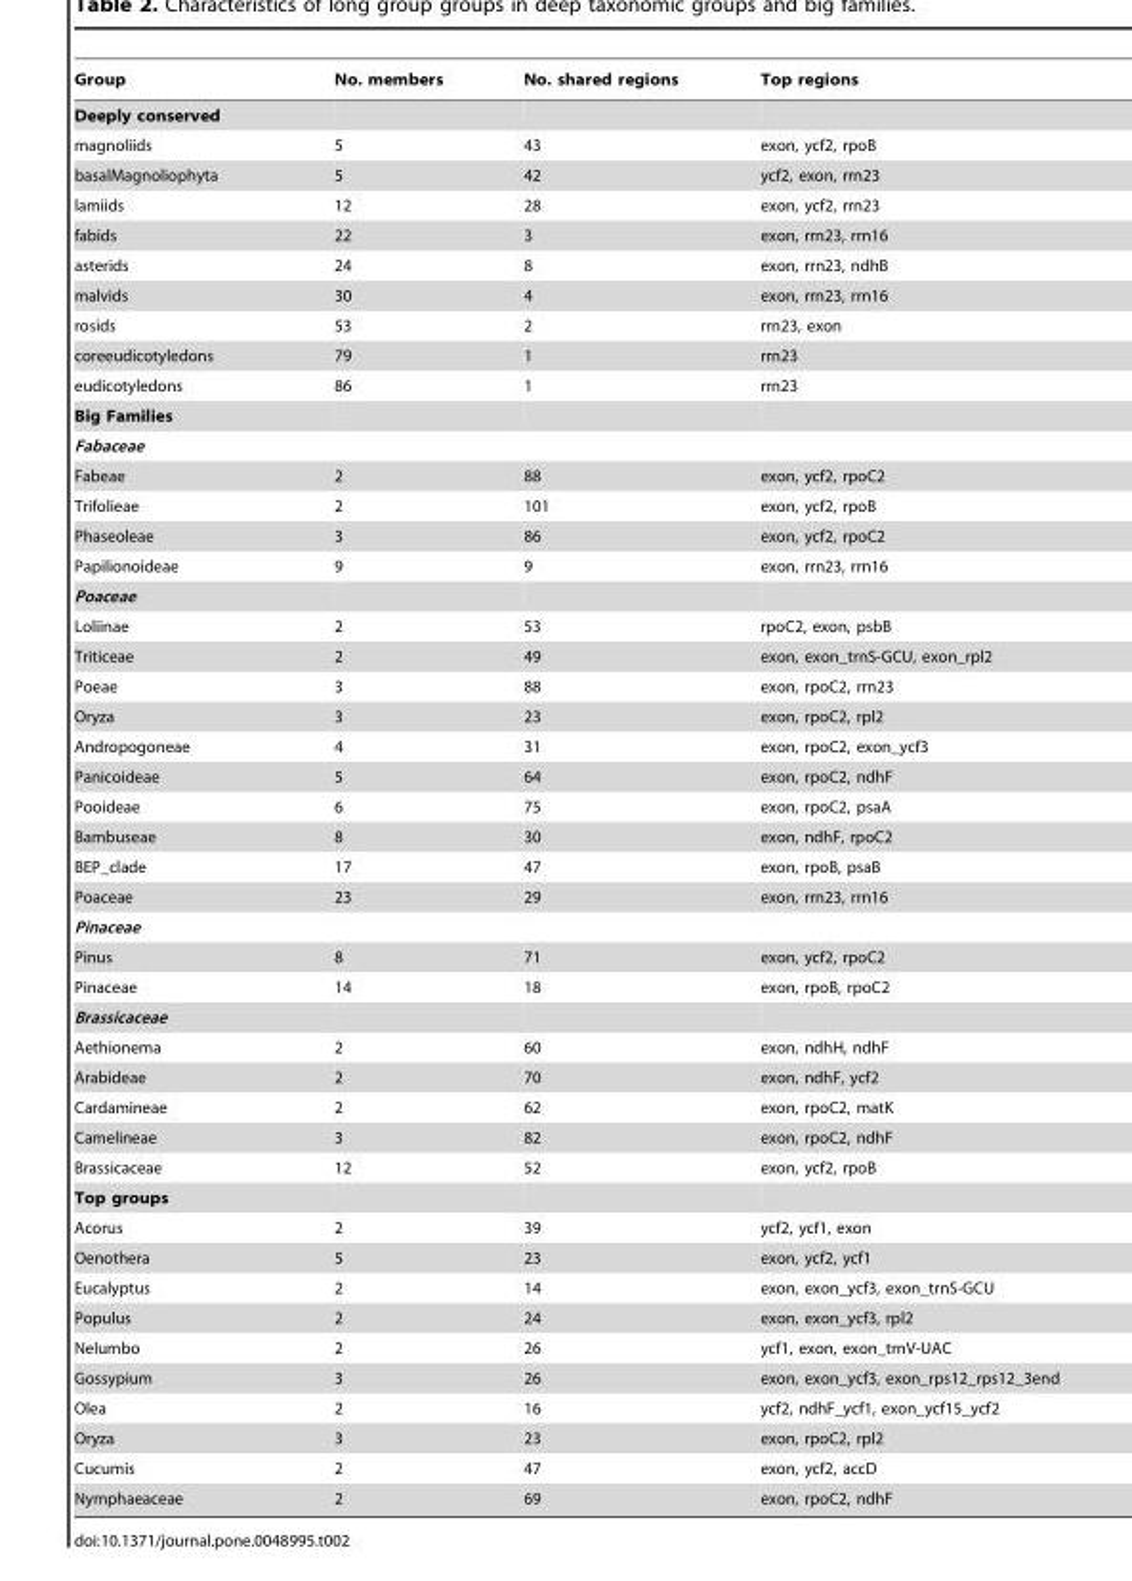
<table><thead><tr><td>Group</td><td>No. members</td><td>No. shared regions</td><td>Top regions</td></tr></thead><tbody><tr><td colspan="4">Deeply conserved</td></tr><tr><td>magnoliids</td><td>5</td><td>43</td><td>exon, ycf2, rpoB</td></tr><tr><td>basalMagnoliophyta</td><td>5</td><td>42</td><td>ycf2, exon, rrn23</td></tr><tr><td>lamiids</td><td>12</td><td>28</td><td>exon, ycf2, rrn23</td></tr><tr><td>fabids</td><td>22</td><td>3</td><td>exon, rrn23, rrn16</td></tr><tr><td>asterids</td><td>24</td><td>8</td><td>exon, rrn23, ndhB</td></tr><tr><td>malvids</td><td>30</td><td>4</td><td>exon, rrn23, rrn16</td></tr><tr><td>rosids</td><td>53</td><td>2</td><td>rrn23, exon</td></tr><tr><td>coreeudicotyledons</td><td>79</td><td>1</td><td>rrn23</td></tr><tr><td>eudicotyledons</td><td>86</td><td>1</td><td>rrn23</td></tr><tr><td colspan="4">Big Families</td></tr><tr><td colspan="4">Fabaceae</td></tr><tr><td>Fabeae</td><td>2</td><td>88</td><td>exon, ycf2, rpoC2</td></tr><tr><td>Trifolieae</td><td>2</td><td>101</td><td>exon, ycf2, rpoB</td></tr><tr><td>Phaseoleae</td><td>3</td><td>86</td><td>exon, ycf2, rpoC2</td></tr><tr><td>Papilionoideae</td><td>9</td><td>9</td><td>exon, rrn23, rrn16</td></tr><tr><td colspan="4">Poaceae</td></tr><tr><td>Loliinae</td><td>2</td><td>53</td><td>rpoC2, exon, psbB</td></tr><tr><td>Triticeae</td><td>2</td><td>49</td><td>exon, exon_trnS-GCU, exon_rpl2</td></tr><tr><td>Poeae</td><td>3</td><td>88</td><td>exon, rpoC2, rrn23</td></tr><tr><td>Oryza</td><td>3</td><td>23</td><td>exon, rpoC2, rpl2</td></tr><tr><td>Andropogoneae</td><td>4</td><td>31</td><td>exon, rpoC2, exon_ycf3</td></tr><tr><td>Panicoideae</td><td>5</td><td>64</td><td>exon, rpoC2, ndhF</td></tr><tr><td>Pooideae</td><td>6</td><td>75</td><td>exon, rpoC2, psaA</td></tr><tr><td>Bambuseae</td><td>8</td><td>30</td><td>exon, ndhF, rpoC2</td></tr><tr><td>BEP_clade</td><td>17</td><td>47</td><td>exon, rpoB, psaB</td></tr><tr><td>Poaceae</td><td>23</td><td>29</td><td>exon, rrn23, rrn16</td></tr><tr><td colspan="4">Pinaceae</td></tr><tr><td>Pinus</td><td>8</td><td>71</td><td>exon, ycf2, rpoC2</td></tr><tr><td>Pinaceae</td><td>14</td><td>18</td><td>exon, rpoB, rpoC2</td></tr><tr><td colspan="4">Brassicaceae</td></tr><tr><td>Aethionema</td><td>2</td><td>60</td><td>exon, ndhH, ndhF</td></tr><tr><td>Arabideae</td><td>2</td><td>70</td><td>exon, ndhF, ycf2</td></tr><tr><td>Cardamineae</td><td>2</td><td>62</td><td>exon, rpoC2, matK</td></tr><tr><td>Camelineae</td><td>3</td><td>82</td><td>exon, rpoC2, ndhF</td></tr><tr><td>Brassicaceae</td><td>12</td><td>52</td><td>exon, ycf2, rpoB</td></tr><tr><td colspan="4">Top groups</td></tr><tr><td>Acorus</td><td>2</td><td>39</td><td>ycf2, ycf1, exon</td></tr><tr><td>Oenothera</td><td>5</td><td>23</td><td>exon, ycf2, ycf1</td></tr><tr><td>Eucalyptus</td><td>2</td><td>14</td><td>exon, exon_ycf3, exon_trnS-GCU</td></tr><tr><td>Populus</td><td>2</td><td>24</td><td>exon, exon_ycf3, rpl2</td></tr><tr><td>Nelumbo</td><td>2</td><td>26</td><td>ycf1, exon, exon_trnV-UAC</td></tr><tr><td>Gossypium</td><td>3</td><td>26</td><td>exon, exon_ycf3, exon_rps12_rps12_3end</td></tr><tr><td>Olea</td><td>2</td><td>16</td><td>ycf2, ndhF_ycf1, exon_ycf15_ycf2</td></tr><tr><td>Oryza</td><td>3</td><td>23</td><td>exon, rpoC2, rpl2</td></tr><tr><td>Cucumis</td><td>2</td><td>47</td><td>exon, ycf2, accD</td></tr><tr><td>Nymphaeaceae</td><td>2</td><td>69</td><td>exon, rpoC2, ndhF</td></tr></tbody></table>